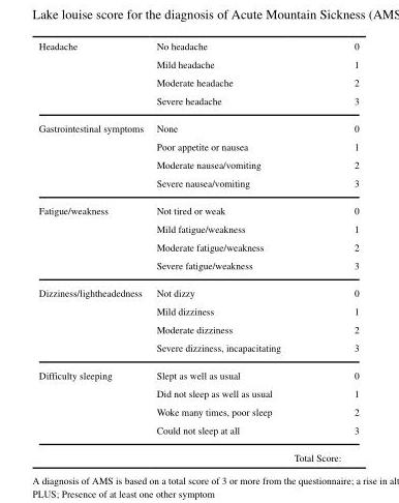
<table><tbody><tr><td rowspan="4">Headache</td><td>No headache</td><td></td><td>0</td></tr><tr><td>Mild headache</td><td></td><td>1</td></tr><tr><td>Moderate headache</td><td></td><td>2</td></tr><tr><td>Severe headache</td><td></td><td>3</td></tr><tr><td rowspan="4">Gastrointestinal symptoms</td><td>None</td><td></td><td>0</td></tr><tr><td>Poor appetite or nausea</td><td></td><td>1</td></tr><tr><td>Moderate nausea/vomiting</td><td></td><td>2</td></tr><tr><td>Severe nausea/vomiting</td><td></td><td>3</td></tr><tr><td rowspan="4">Fatigue/weakness</td><td>Not tired or weak</td><td></td><td>0</td></tr><tr><td>Mild fatigue/weakness</td><td></td><td>1</td></tr><tr><td>Moderate fatigue/weakness</td><td></td><td>2</td></tr><tr><td>Severe fatigue/weakness</td><td></td><td>3</td></tr><tr><td rowspan="4">Dizziness/lightheadedness</td><td>Not dizzy</td><td></td><td>0</td></tr><tr><td>Mild dizziness</td><td></td><td>1</td></tr><tr><td>Moderate dizziness</td><td></td><td>2</td></tr><tr><td>Severe dizziness, incapacitating</td><td></td><td>3</td></tr><tr><td rowspan="5">Difficulty sleeping</td><td>Slept as well as usual</td><td></td><td>0</td></tr><tr><td>Did not sleep as well as usual</td><td></td><td>1</td></tr><tr><td>Woke many times, poor sleep</td><td></td><td>2</td></tr><tr><td>Could not sleep at all</td><td></td><td>3</td></tr><tr><td></td><td>Total Score:</td><td></td></tr></tbody></table>